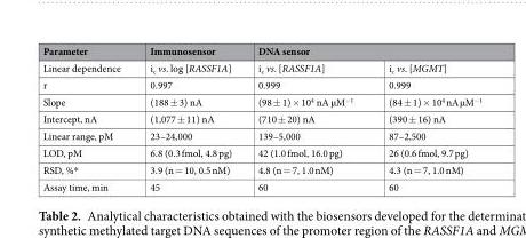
<table><thead><tr><td rowspan="2">Parameter Linear dependence</td><td rowspan="2">Immunosensor i<sub>c</sub> vs. log [RASSF1A]</td><td colspan="2">DNA sensor</td></tr><tr><td>i<sub>c</sub> vs. [RASSF1A]</td><td>i<sub>c</sub> vs. [MGMT]</td></tr></thead><tbody><tr><td>r</td><td>0.997</td><td>0.999</td><td>0.999</td></tr><tr><td>Slope</td><td>(188 ± 3) nA</td><td>(98 ± 1) × 10<sup>4</sup> nA µM<sup>−1</sup></td><td>(84 ± 1) × 10<sup>4</sup> nA µM<sup>−1</sup></td></tr><tr><td>Intercept, nA</td><td>(1,077 ± 11) nA</td><td>(710 ± 20) nA</td><td>(390 ± 16) nA</td></tr><tr><td>Linear range, pM</td><td>23–24,000</td><td>139–5,000</td><td>87–2,500</td></tr><tr><td>LOD, pM</td><td>6.8 (0.3 fmol, 4.8 pg)</td><td>42 (1.0 fmol, 16.0 pg)</td><td>26 (0.6 fmol, 9.7 pg)</td></tr><tr><td>RSD, %*</td><td>3.9 (n = 10, 0.5 nM)</td><td>4.8 (n = 7, 1.0 nM)</td><td>4.3 (n = 7, 1.0 nM)</td></tr><tr><td>Assay time, min</td><td>45</td><td>60</td><td>60</td></tr></tbody></table>